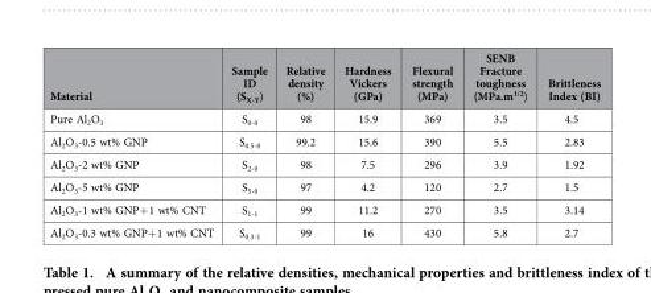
<table><thead><tr><td>Material</td><td>Sample ID (S<sub>X-Y</sub>)</td><td>Relative density (%)</td><td>Hardness Vickers (GPa)</td><td>Flexural strength (MPa)</td><td>SENB Fracture toughness (MPa.m<sup>1/2</sup>)</td><td>Brittleness Index (BI)</td></tr></thead><tbody><tr><td>Pure Al<sub>2</sub>O<sub>3</sub></td><td>S<sub>0-0</sub></td><td>98</td><td>15.9</td><td>369</td><td>3.5</td><td>4.5</td></tr><tr><td>Al<sub>2</sub>O<sub>3</sub>-0.5 wt% GNP</td><td>S<sub>0.5-0</sub></td><td>99.2</td><td>15.6</td><td>390</td><td>5.5</td><td>2.83</td></tr><tr><td>Al<sub>2</sub>O<sub>3</sub>-2 wt% GNP</td><td>S<sub>2-0</sub></td><td>98</td><td>7.5</td><td>296</td><td>3.9</td><td>1.92</td></tr><tr><td>Al<sub>2</sub>O<sub>3</sub>-5 wt% GNP</td><td>S<sub>5-0</sub></td><td>97</td><td>4.2</td><td>120</td><td>2.7</td><td>1.5</td></tr><tr><td>Al<sub>2</sub>O<sub>3</sub>-1 wt% GNP+ 1 wt% CNT</td><td>S<sub>1-1</sub></td><td>99</td><td>11.2</td><td>270</td><td>3.5</td><td>3.14</td></tr><tr><td>Al<sub>2</sub>O<sub>3</sub>-0.3 wt% GNP+ 1 wt% CNT</td><td>S<sub>0.3-1</sub></td><td>99</td><td>16</td><td>430</td><td>5.8</td><td>2.7</td></tr></tbody></table>